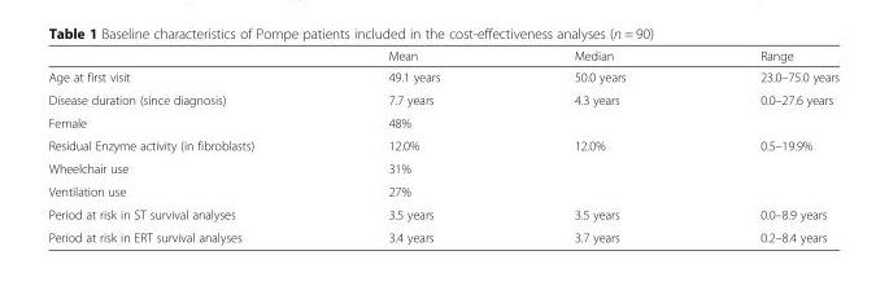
<table><thead><tr><td></td><td>Mean</td><td>Median</td><td>Range</td></tr></thead><tbody><tr><td>Age at first visit</td><td>49.1 years</td><td>50.0 years</td><td>23.0–75.0 years</td></tr><tr><td>Disease duration (since diagnosis)</td><td>7.7 years</td><td>4.3 years</td><td>0.0–27.6 years</td></tr><tr><td>Female</td><td>48%</td><td></td><td></td></tr><tr><td>Residual Enzyme activity (in fibroblasts)</td><td>12.0%</td><td>12.0%</td><td>0.5–19.9%</td></tr><tr><td>Wheelchair use</td><td>31%</td><td></td><td></td></tr><tr><td>Ventilation use</td><td>27%</td><td></td><td></td></tr><tr><td>Period at risk in ST survival analyses</td><td>3.5 years</td><td>3.5 years</td><td>0.0–8.9 years</td></tr><tr><td>Period at risk in ERT survival analyses</td><td>3.4 years</td><td>3.7 years</td><td>0.2–8.4 years</td></tr></tbody></table>